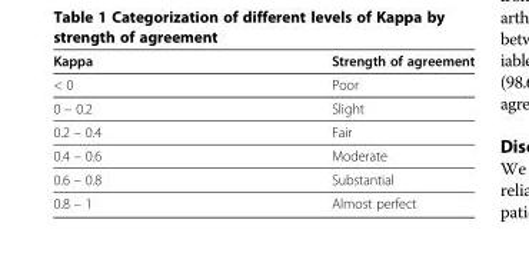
<table><thead><tr><td>Kappa</td><td>Strength of agreement</td></tr></thead><tbody><tr><td>&lt; 0</td><td>Poor</td></tr><tr><td>0 – 0.2</td><td>Slight</td></tr><tr><td>0.2 – 0.4</td><td>Fair</td></tr><tr><td>0.4 – 0.6</td><td>Moderate</td></tr><tr><td>0.6 – 0.8</td><td>Substantial</td></tr><tr><td>0.8 – 1</td><td>Almost perfect</td></tr></tbody></table>